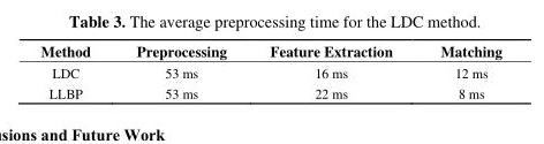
<table><thead><tr><td>Method</td><td>Preprocessing</td><td>Feature Extraction</td><td>Matching</td></tr></thead><tbody><tr><td>LDC</td><td>53 ms</td><td>16 ms</td><td>12 ms</td></tr><tr><td>LLBP</td><td>53 ms</td><td>22 ms</td><td>8 ms</td></tr></tbody></table>